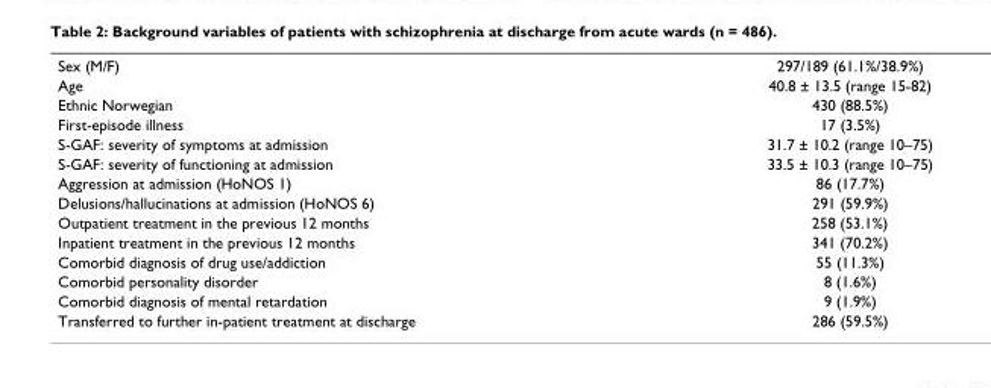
<table><tbody><tr><td>Sex (M/F)</td><td>297/189 (61.1%/38.9%)</td></tr><tr><td>Age</td><td>40.8 ± 13.5 (range 15-82)</td></tr><tr><td>Ethnic Norwegian</td><td>430 (88.5%)</td></tr><tr><td>First-episode illness</td><td>17 (3.5%)</td></tr><tr><td>S-GAF: severity of symptoms at admission</td><td>31.7 ± 10.2 (range 10–75)</td></tr><tr><td>S-GAF: severity of functioning at admission</td><td>33.5 ± 10.3 (range 10–75)</td></tr><tr><td>Aggression at admission (HoNOS 1)</td><td>86 (17.7%)</td></tr><tr><td>Delusions/hallucinations at admission (HoNOS 6)</td><td>291 (59.9%)</td></tr><tr><td>Outpatient treatment in the previous 12 months</td><td>258 (53.1%)</td></tr><tr><td>Inpatient treatment in the previous 12 months</td><td>341 (70.2%)</td></tr><tr><td>Comorbid diagnosis of drug use/addiction</td><td>55 (11.3%)</td></tr><tr><td>Comorbid personality disorder</td><td>8 (1.6%)</td></tr><tr><td>Comorbid diagnosis of mental retardation</td><td>9 (1.9%)</td></tr><tr><td>Transferred to further in-patient treatment at discharge</td><td>286 (59.5%)</td></tr></tbody></table>